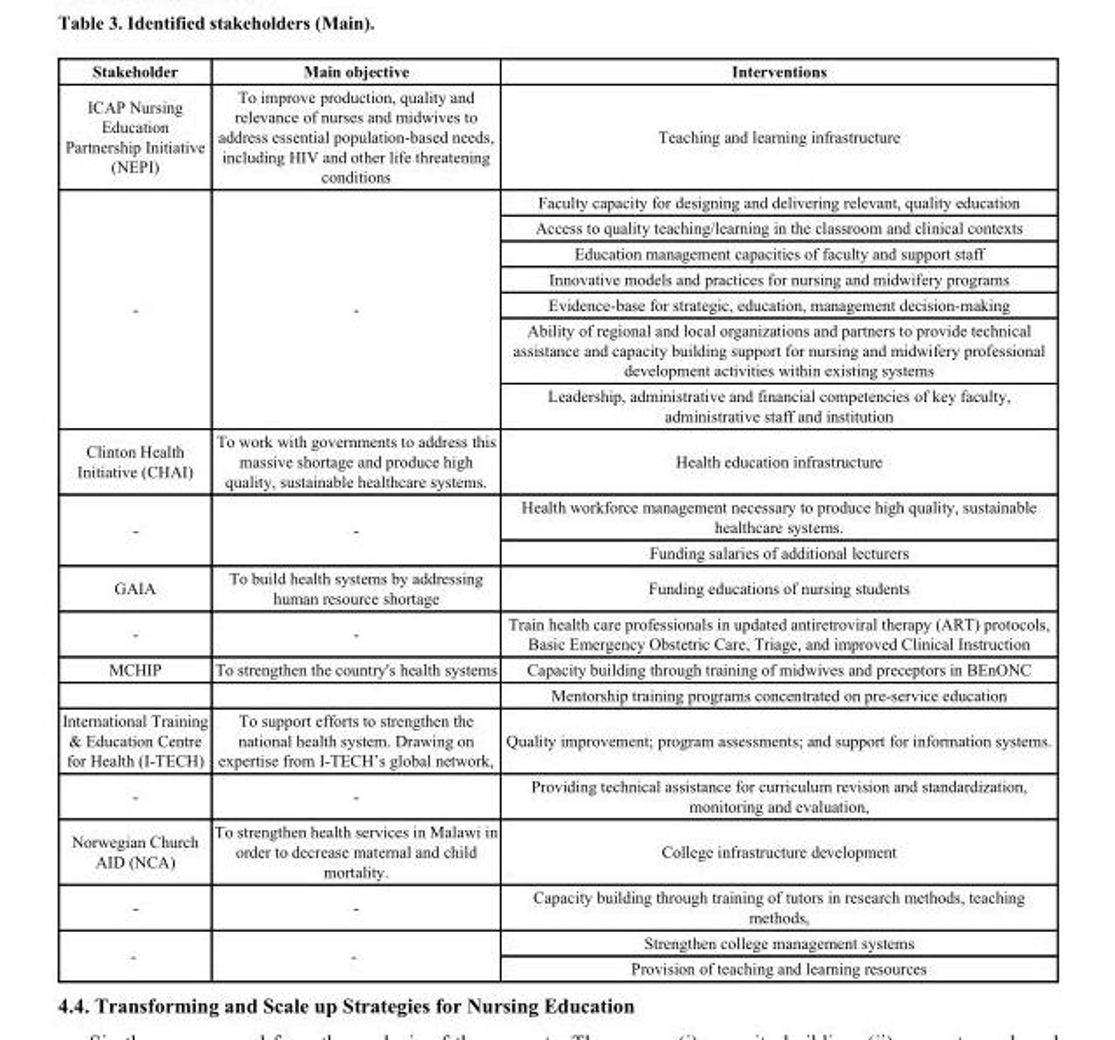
<table><thead><tr><td>Stakeholder</td><td>Main objective</td><td>Interventions</td></tr></thead><tbody><tr><td>ICAP Nursing Education Partnership Initiative (NEPI)</td><td>To improve production, quality and relevance of nurses and midwives to address essential population-based needs, including HIV and other life threatening conditions</td><td>Teaching and learning infrastructure</td></tr><tr><td rowspan="7">-</td><td rowspan="7">-</td><td>Faculty capacity for designing and delivering relevant, quality education</td></tr><tr><td>Access to quality teaching/learning in the classroom and clinical contexts</td></tr><tr><td>Education management capacities of faculty and support staff</td></tr><tr><td>Innovative models and practices for nursing and midwifery programs</td></tr><tr><td>Evidence-base for strategic, education, management decision-making</td></tr><tr><td>Ability of regional and local organizations and partners to provide technical assistance and capacity building support for nursing and midwifery professional development activities within existing systems</td></tr><tr><td>Leadership, administrative and financial competencies of key faculty, administrative staff and institution</td></tr><tr><td>Clinton Health Initiative (CHAI)</td><td>To work with governments to address this massive shortage and produce high quality, sustainable healthcare systems.</td><td>Health education infrastructure</td></tr><tr><td rowspan="2">-</td><td rowspan="2">-</td><td>Health workforce management necessary to produce high quality, sustainable healthcare systems.</td></tr><tr><td>Funding salaries of additional lecturers</td></tr><tr><td>GAIA</td><td>To build health systems by addressing human resource shortage</td><td>Funding educations of nursing students</td></tr><tr><td>-</td><td>-</td><td>Train health care professionals in updated antiretroviral therapy (ART) protocols, Basic Emergency Obstetric Care, Triage, and improved Clinical Instruction</td></tr><tr><td rowspan="2">MCHIP</td><td>To strengthen the country&#x27;s health systems</td><td>Capacity building through training of midwives and preceptors in BEnONC</td></tr><tr><td></td><td>Mentorship training programs concentrated on pre-service education</td></tr><tr><td>International Training &amp; Education Centre for Health (I-TECH)</td><td>To support efforts to strengthen the national health system. Drawing on expertise from I-TECH’s global network,</td><td>Quality improvement; program assessments; and support for information systems.</td></tr><tr><td>-</td><td>-</td><td>Providing technical assistance for curriculum revision and standardization, monitoring and evaluation,</td></tr><tr><td>Norwegian Church AID (NCA)</td><td>To strengthen health services in Malawi in order to decrease maternal and child mortality.</td><td>College infrastructure development</td></tr><tr><td>-</td><td>-</td><td>Capacity building through training of tutors in research methods, teaching methods,</td></tr><tr><td rowspan="2">-</td><td rowspan="2">-</td><td>Strengthen college management systems</td></tr><tr><td>Provision of teaching and learning resources</td></tr></tbody></table>